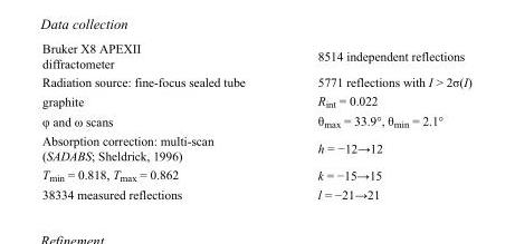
<table><tbody><tr><td>Bruker X8 APEXII diffractometer</td><td>8514 independent reflections</td></tr><tr><td>Radiation source: fine-focus sealed tube</td><td>5771 reflections with I &gt; 2σ(I)</td></tr><tr><td>graphite</td><td>R<sub>int</sub> = 0.022</td></tr><tr><td>φ and ω scans</td><td>θ<sub>max</sub> = 33.9°, θ<sub>min</sub> = 2.1°</td></tr><tr><td>Absorption correction: multi-scan (SADABS; Sheldrick, 1996)</td><td>h = −12→12</td></tr><tr><td>T<sub>min</sub> = 0.818, T<sub>max</sub> = 0.862</td><td>k = −15→15</td></tr><tr><td>38334 measured reflections</td><td>l = −21→21</td></tr></tbody></table>